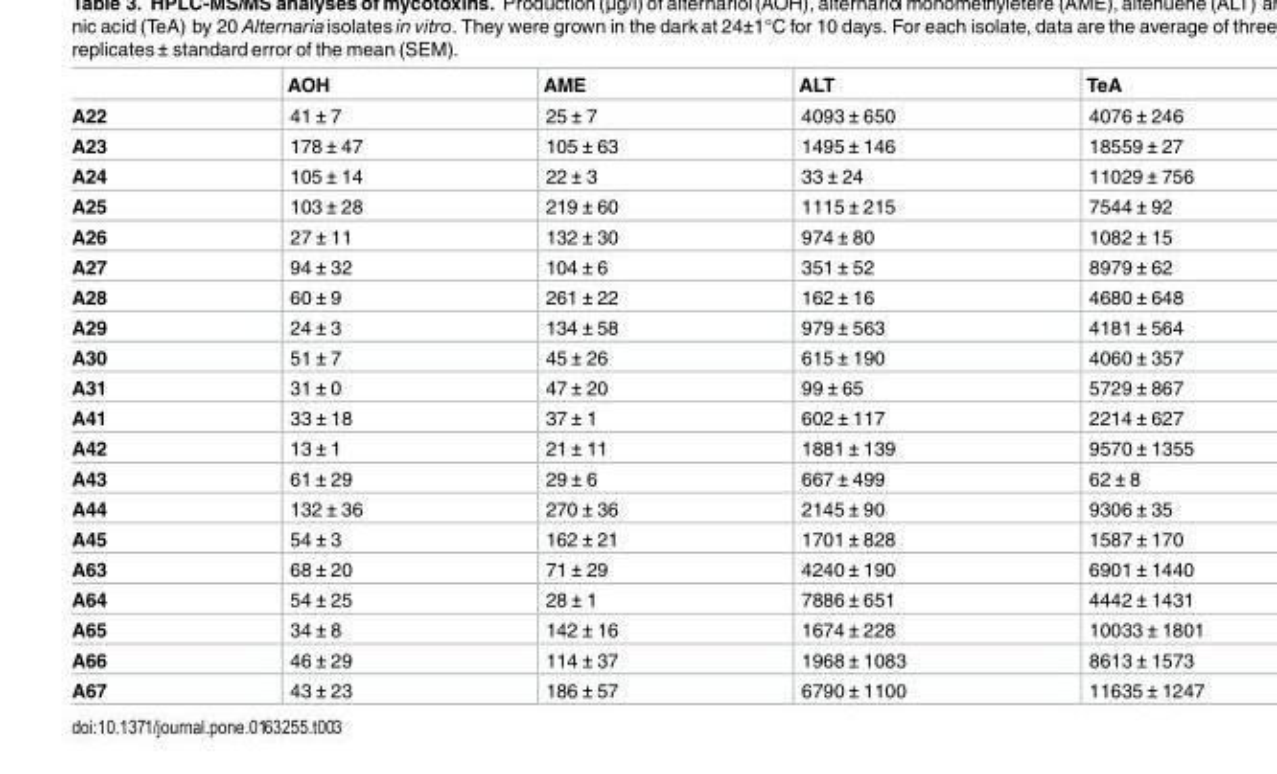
<table><thead><tr><td></td><td>AOH</td><td>AME</td><td>ALT</td><td>TeA</td></tr></thead><tbody><tr><td>A22</td><td>41 ± 7</td><td>25 ± 7</td><td>4093 ± 650</td><td>4076 ± 246</td></tr><tr><td>A23</td><td>178 ± 47</td><td>105 ± 63</td><td>1495 ± 146</td><td>18559 ± 27</td></tr><tr><td>A24</td><td>105 ± 14</td><td>22 ± 3</td><td>33 ± 24</td><td>11029 ± 756</td></tr><tr><td>A25</td><td>103 ± 28</td><td>219 ± 60</td><td>1115 ± 215</td><td>7544 ± 92</td></tr><tr><td>A26</td><td>27 ± 11</td><td>132 ± 30</td><td>974 ± 80</td><td>1082 ± 15</td></tr><tr><td>A27</td><td>94 ± 32</td><td>104 ± 6</td><td>351 ± 52</td><td>8979 ± 62</td></tr><tr><td>A28</td><td>60 ± 9</td><td>261 ± 22</td><td>162 ± 16</td><td>4680 ± 648</td></tr><tr><td>A29</td><td>24 ± 3</td><td>134 ± 58</td><td>979 ± 563</td><td>4181 ± 564</td></tr><tr><td>A30</td><td>51 ± 7</td><td>45 ± 26</td><td>615 ± 190</td><td>4060 ± 357</td></tr><tr><td>A31</td><td>31 ± 0</td><td>47 ± 20</td><td>99 ± 65</td><td>5729 ± 867</td></tr><tr><td>A41</td><td>33 ± 18</td><td>37 ± 1</td><td>602 ± 117</td><td>2214 ± 627</td></tr><tr><td>A42</td><td>13 ± 1</td><td>21 ± 11</td><td>1881 ± 139</td><td>9570 ± 1355</td></tr><tr><td>A43</td><td>61 ± 29</td><td>29 ± 6</td><td>667 ± 499</td><td>62 ± 8</td></tr><tr><td>A44</td><td>132 ± 36</td><td>270 ± 36</td><td>2145 ± 90</td><td>9306 ± 35</td></tr><tr><td>A45</td><td>54 ± 3</td><td>162 ± 21</td><td>1701 ± 828</td><td>1587 ± 170</td></tr><tr><td>A63</td><td>68 ± 20</td><td>71 ± 29</td><td>4240 ± 190</td><td>6901 ± 1440</td></tr><tr><td>A64</td><td>54 ± 25</td><td>28 ± 1</td><td>7886 ± 651</td><td>4442 ± 1431</td></tr><tr><td>A65</td><td>34 ± 8</td><td>142 ± 16</td><td>1674 ± 228</td><td>10033 ± 1801</td></tr><tr><td>A66</td><td>46 ± 29</td><td>114 ± 37</td><td>1968 ± 1083</td><td>8613 ± 1573</td></tr><tr><td>A67</td><td>43 ± 23</td><td>186 ± 57</td><td>6790 ± 1100</td><td>11635 ± 1247</td></tr></tbody></table>